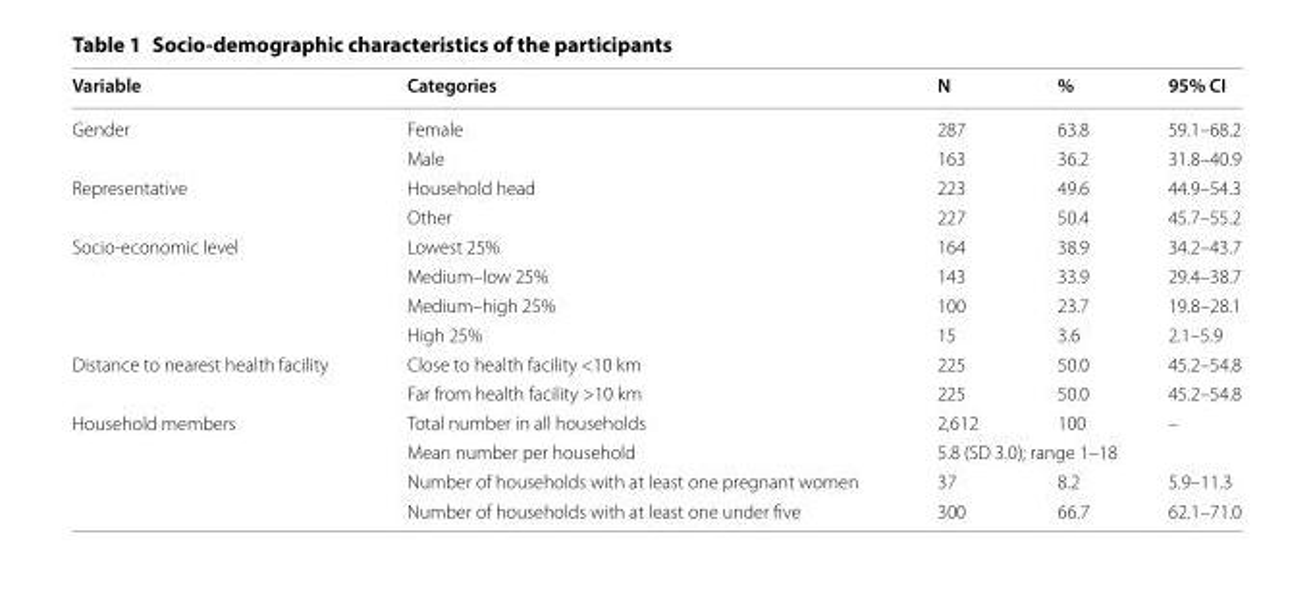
<table><thead><tr><td>Variable</td><td>Categories</td><td>N</td><td>%</td><td>95% CI</td></tr></thead><tbody><tr><td rowspan="2">Gender</td><td>Female</td><td>287</td><td>63.8</td><td>59.1–68.2</td></tr><tr><td>Male</td><td>163</td><td>36.2</td><td>31.8–40.9</td></tr><tr><td rowspan="2">Representative</td><td>Household head</td><td>223</td><td>49.6</td><td>44.9–54.3</td></tr><tr><td>Other</td><td>227</td><td>50.4</td><td>45.7–55.2</td></tr><tr><td rowspan="4">Socio-economic level</td><td>Lowest 25%</td><td>164</td><td>38.9</td><td>34.2–43.7</td></tr><tr><td>Medium–low 25%</td><td>143</td><td>33.9</td><td>29.4–38.7</td></tr><tr><td>Medium–high 25%</td><td>100</td><td>23.7</td><td>19.8–28.1</td></tr><tr><td>High 25%</td><td>15</td><td>3.6</td><td>2.1–5.9</td></tr><tr><td rowspan="2">Distance to nearest health facility</td><td>Close to health facility &lt;10 km</td><td>225</td><td>50.0</td><td>45.2–54.8</td></tr><tr><td>Far from health facility &gt;10 km</td><td>225</td><td>50.0</td><td>45.2–54.8</td></tr><tr><td rowspan="4">Household members</td><td>Total number in all households</td><td>2,612</td><td>100</td><td>–</td></tr><tr><td>Mean number per household</td><td colspan="3">5.8 (SD 3.0); range 1–18</td></tr><tr><td>Number of households with at least one pregnant women</td><td>37</td><td>8.2</td><td>5.9–11.3</td></tr><tr><td>Number of households with at least one under five</td><td>300</td><td>66.7</td><td>62.1–71.0</td></tr></tbody></table>